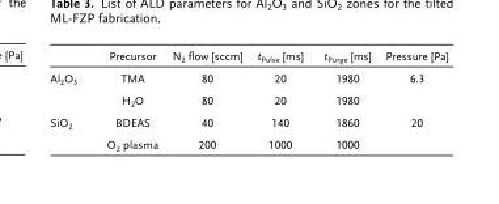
<table><thead><tr><td></td><td>Precursor</td><td>N<sub>2</sub> flow [sccm]</td><td>t<sub>Pulse</sub> [ms]</td><td>t<sub>Purge</sub> [ms]</td><td>Pressure [Pa]</td></tr></thead><tbody><tr><td rowspan="2">Al<sub>2</sub>O<sub>3</sub></td><td>TMA</td><td>80</td><td>20</td><td>1980</td><td>6.3</td></tr><tr><td>H<sub>2</sub>O</td><td>80</td><td>20</td><td>1980</td><td></td></tr><tr><td rowspan="2">SiO<sub>2</sub></td><td>BDEAS</td><td>40</td><td>140</td><td>1860</td><td>20</td></tr><tr><td>O<sub>2</sub> plasma</td><td>200</td><td>1000</td><td>1000</td><td></td></tr></tbody></table>